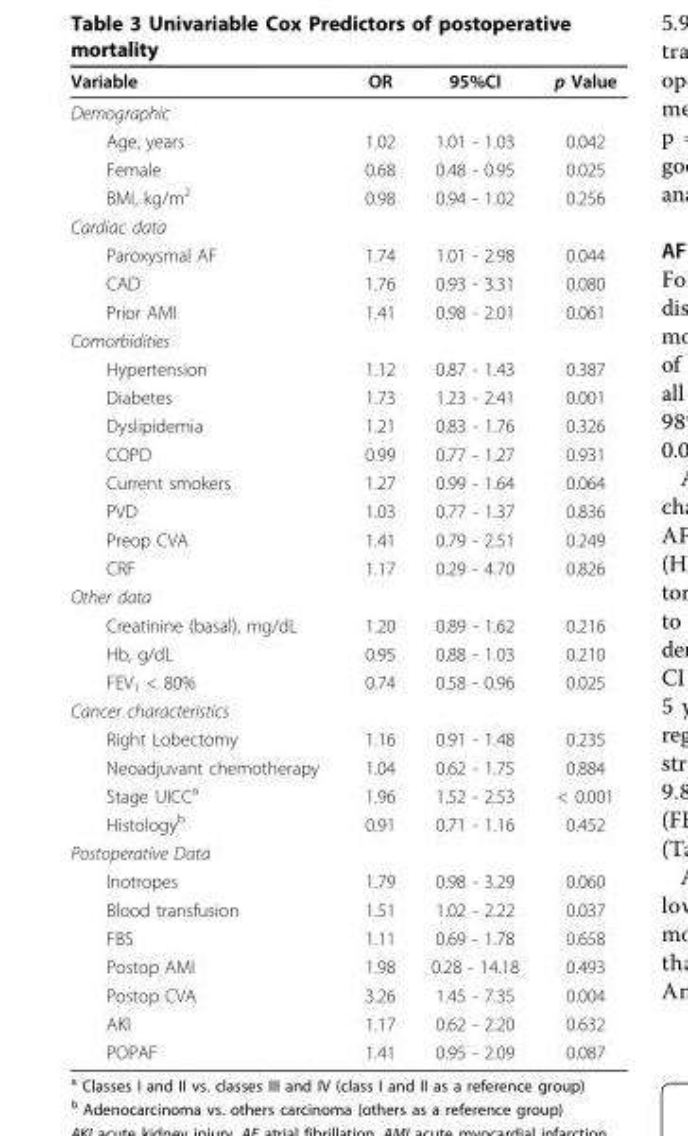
<table><thead><tr><td>Variable</td><td>OR</td><td>95%CI</td><td>p Value</td></tr></thead><tbody><tr><td colspan="4">Demographic</td></tr><tr><td>Age, years</td><td>1.02</td><td>1.01 - 1.03</td><td>0.042</td></tr><tr><td>Female</td><td>0.68</td><td>0.48 - 0.95</td><td>0.025</td></tr><tr><td>BMI, kg/m<sup>2</sup></td><td>0.98</td><td>0.94 - 1.02</td><td>0.256</td></tr><tr><td colspan="4">Cardiac data</td></tr><tr><td>Paroxysmal AF</td><td>1.74</td><td>1.01 - 2.98</td><td>0.044</td></tr><tr><td>CAD</td><td>1.76</td><td>0.93 - 3.31</td><td>0.080</td></tr><tr><td>Prior AMI</td><td>1.41</td><td>0.98 - 2.01</td><td>0.061</td></tr><tr><td colspan="4">Comorbidities</td></tr><tr><td>Hypertension</td><td>1.12</td><td>0.87 - 1.43</td><td>0.387</td></tr><tr><td>Diabetes</td><td>1.73</td><td>1.23 - 2.41</td><td>0.001</td></tr><tr><td>Dyslipidemia</td><td>1.21</td><td>0.83 - 1.76</td><td>0.326</td></tr><tr><td>COPD</td><td>0.99</td><td>0.77 - 1.27</td><td>0.931</td></tr><tr><td>Current smokers</td><td>1.27</td><td>0.99 - 1.64</td><td>0.064</td></tr><tr><td>PVD</td><td>1.03</td><td>0.77 - 1.37</td><td>0.836</td></tr><tr><td>Preop CVA</td><td>1.41</td><td>0.79 - 2.51</td><td>0.249</td></tr><tr><td>CRF</td><td>1.17</td><td>0.29 - 4.70</td><td>0.826</td></tr><tr><td colspan="4">Other data</td></tr><tr><td>Creatinine (basal), mg/dL</td><td>1.20</td><td>0.89 - 1.62</td><td>0.216</td></tr><tr><td>Hb, g/dL</td><td>0.95</td><td>0.88 - 1.03</td><td>0.210</td></tr><tr><td>FEV<sub>1</sub> &lt; 80%</td><td>0.74</td><td>0.58 - 0.96</td><td>0.025</td></tr><tr><td colspan="4">Cancer characteristics</td></tr><tr><td>Right Lobectomy</td><td>1.16</td><td>0.91 - 1.48</td><td>0.235</td></tr><tr><td>Neoadjuvant chemotherapy</td><td>1.04</td><td>0.62 - 1.75</td><td>0.884</td></tr><tr><td>Stage UICC<sup>a</sup></td><td>1.96</td><td>1.52 - 2.53</td><td>&lt; 0.001</td></tr><tr><td>Histology<sup>b</sup></td><td>0.91</td><td>0.71 - 1.16</td><td>0.452</td></tr><tr><td colspan="4">Postoperative Data</td></tr><tr><td>Inotropes</td><td>1.79</td><td>0.98 - 3.29</td><td>0.060</td></tr><tr><td>Blood transfusion</td><td>1.51</td><td>1.02 - 2.22</td><td>0.037</td></tr><tr><td>FBS</td><td>1.11</td><td>0.69 - 1.78</td><td>0.658</td></tr><tr><td>Postop AMI</td><td>1.98</td><td>0.28 - 14.18</td><td>0.493</td></tr><tr><td>Postop CVA</td><td>3.26</td><td>1.45 - 7.35</td><td>0.004</td></tr><tr><td>AKI</td><td>1.17</td><td>0.62 - 2.20</td><td>0.632</td></tr><tr><td>POPAF</td><td>1.41</td><td>0.95 - 2.09</td><td>0.087</td></tr></tbody></table>